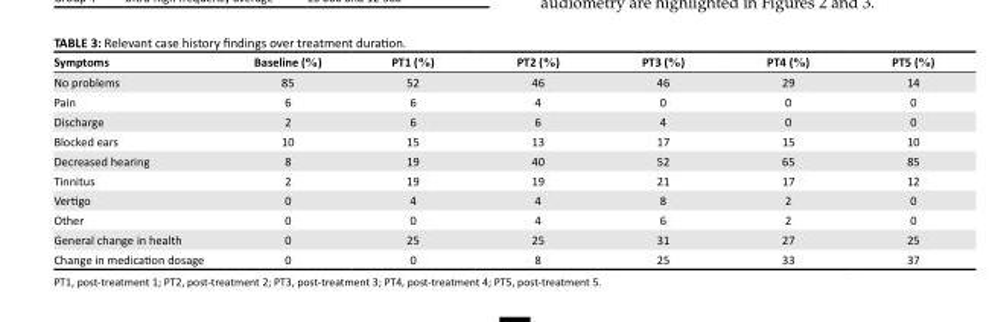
<table><thead><tr><td>Symptoms</td><td>Baseline (%)</td><td>PT1 (%)</td><td>PT2 (%)</td><td>PT3 (%)</td><td>PT4 (%)</td><td>PT5 (%)</td></tr></thead><tbody><tr><td>No problems</td><td>85</td><td>52</td><td>46</td><td>46</td><td>29</td><td>14</td></tr><tr><td>Pain</td><td>6</td><td>6</td><td>4</td><td>0</td><td>0</td><td>0</td></tr><tr><td>Discharge</td><td>2</td><td>6</td><td>6</td><td>4</td><td>0</td><td>0</td></tr><tr><td>Blocked ears</td><td>10</td><td>15</td><td>13</td><td>17</td><td>15</td><td>10</td></tr><tr><td>Decreased hearing</td><td>8</td><td>19</td><td>40</td><td>52</td><td>65</td><td>85</td></tr><tr><td>Tinnitus</td><td>2</td><td>19</td><td>19</td><td>21</td><td>17</td><td>12</td></tr><tr><td>Vertigo</td><td>0</td><td>4</td><td>4</td><td>8</td><td>2</td><td>0</td></tr><tr><td>Other</td><td>0</td><td>0</td><td>4</td><td>6</td><td>2</td><td>0</td></tr><tr><td>General change in health</td><td>0</td><td>25</td><td>25</td><td>31</td><td>27</td><td>25</td></tr><tr><td>Change in medication dosage</td><td>0</td><td>0</td><td>8</td><td>25</td><td>33</td><td>37</td></tr></tbody></table>